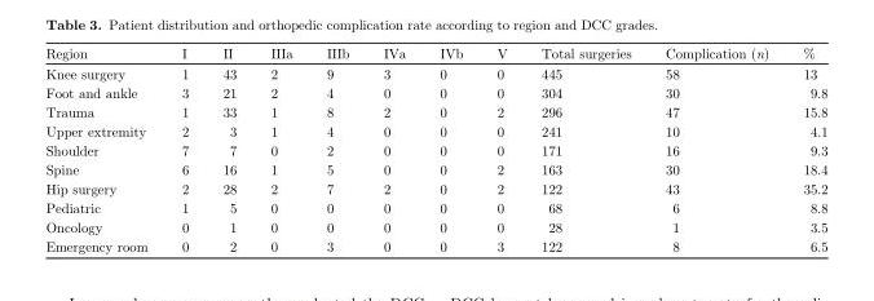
<table><thead><tr><td>Region</td><td>I</td><td>II</td><td>IIIa</td><td>IIIb</td><td>IVa</td><td>IVb</td><td>V</td><td>Total surgeries</td><td>Complication (n)</td><td>%</td></tr></thead><tbody><tr><td>Knee surgery</td><td>1</td><td>43</td><td>2</td><td>9</td><td>3</td><td>0</td><td>0</td><td>445</td><td>58</td><td>13</td></tr><tr><td>Foot and ankle</td><td>3</td><td>21</td><td>2</td><td>4</td><td>0</td><td>0</td><td>0</td><td>304</td><td>30</td><td>9.8</td></tr><tr><td>Trauma</td><td>1</td><td>33</td><td>1</td><td>8</td><td>2</td><td>0</td><td>2</td><td>296</td><td>47</td><td>15.8</td></tr><tr><td>Upper extremity</td><td>2</td><td>3</td><td>1</td><td>4</td><td>0</td><td>0</td><td>0</td><td>241</td><td>10</td><td>4.1</td></tr><tr><td>Shoulder</td><td>7</td><td>7</td><td>0</td><td>2</td><td>0</td><td>0</td><td>0</td><td>171</td><td>16</td><td>9.3</td></tr><tr><td>Spine</td><td>6</td><td>16</td><td>1</td><td>5</td><td>0</td><td>0</td><td>2</td><td>163</td><td>30</td><td>18.4</td></tr><tr><td>Hip surgery</td><td>2</td><td>28</td><td>2</td><td>7</td><td>2</td><td>0</td><td>2</td><td>122</td><td>43</td><td>35.2</td></tr><tr><td>Pediatric</td><td>1</td><td>5</td><td>0</td><td>0</td><td>0</td><td>0</td><td>0</td><td>68</td><td>6</td><td>8.8</td></tr><tr><td>Oncology</td><td>0</td><td>1</td><td>0</td><td>0</td><td>0</td><td>0</td><td>0</td><td>28</td><td>1</td><td>3.5</td></tr><tr><td>Emergency room</td><td>0</td><td>2</td><td>0</td><td>3</td><td>0</td><td>0</td><td>3</td><td>122</td><td>8</td><td>6.5</td></tr></tbody></table>